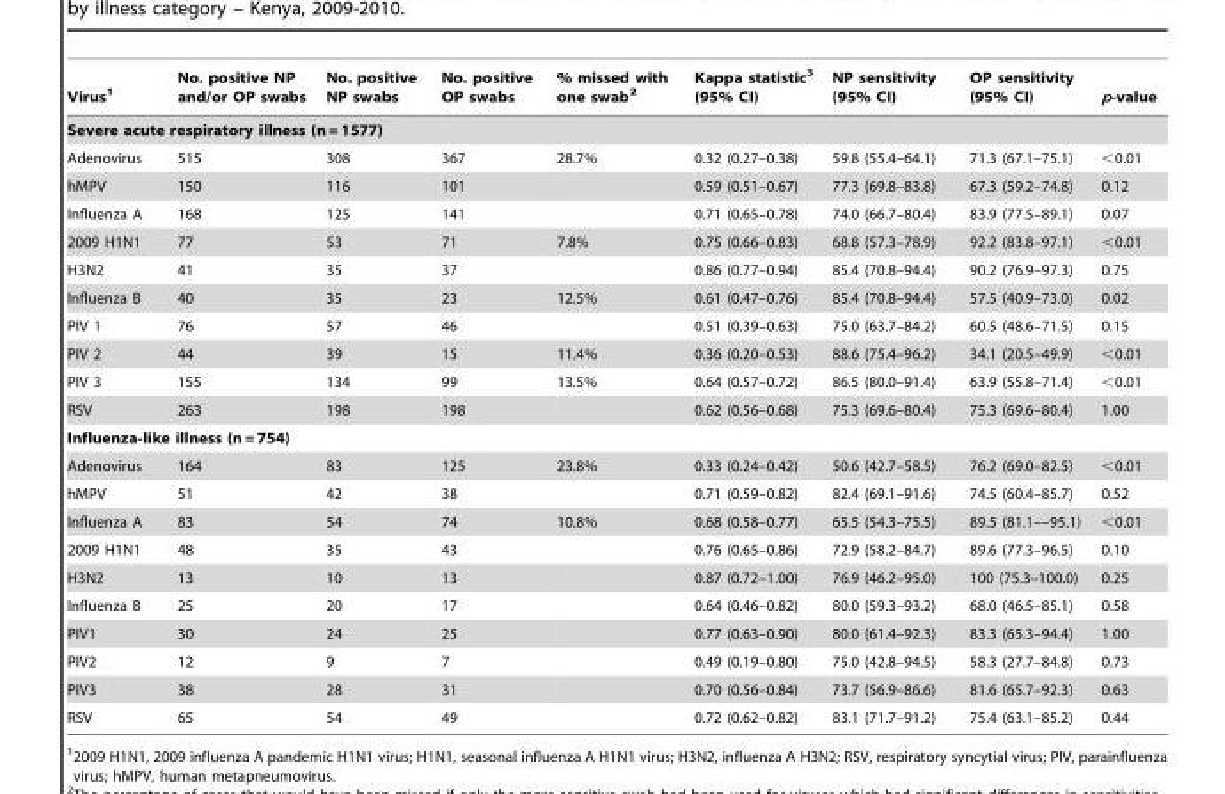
<table><thead><tr><td>Virus<sup>1</sup></td><td>No. positive NP and/or OP swabs</td><td>No. positive NP swabs</td><td>No. positive OP swabs</td><td>% missed with one swab<sup>2</sup></td><td>Kappa statistic<sup>3</sup> (95% CI)</td><td>NP sensitivity (95% CI)</td><td>OP sensitivity (95% CI)</td><td>p-value</td></tr></thead><tbody><tr><td colspan="9">Severe acute respiratory illness (n = 1577)</td></tr><tr><td>Adenovirus</td><td>515</td><td>308</td><td>367</td><td>28.7%</td><td>0.32 (0.27–0.38)</td><td>59.8 (55.4–64.1)</td><td>71.3 (67.1–75.1)</td><td>&lt;0.01</td></tr><tr><td>hMPV</td><td>150</td><td>116</td><td>101</td><td></td><td>0.59 (0.51–0.67)</td><td>77.3 (69.8–83.8)</td><td>67.3 (59.2–74.8)</td><td>0.12</td></tr><tr><td>Influenza A</td><td>168</td><td>125</td><td>141</td><td></td><td>0.71 (0.65–0.78)</td><td>74.0 (66.7–80.4)</td><td>83.9 (77.5–89.1)</td><td>0.07</td></tr><tr><td>2009 H1N1</td><td>77</td><td>53</td><td>71</td><td>7.8%</td><td>0.75 (0.66–0.83)</td><td>68.8 (57.3–78.9)</td><td>92.2 (83.8–97.1)</td><td>&lt;0.01</td></tr><tr><td>H3N2</td><td>41</td><td>35</td><td>37</td><td></td><td>0.86 (0.77–0.94)</td><td>85.4 (70.8–94.4)</td><td>90.2 (76.9–97.3)</td><td>0.75</td></tr><tr><td>Influenza B</td><td>40</td><td>35</td><td>23</td><td>12.5%</td><td>0.61 (0.47–0.76)</td><td>85.4 (70.8–94.4)</td><td>57.5 (40.9–73.0)</td><td>0.02</td></tr><tr><td>PIV 1</td><td>76</td><td>57</td><td>46</td><td></td><td>0.51 (0.39–0.63)</td><td>75.0 (63.7–84.2)</td><td>60.5 (48.6–71.5)</td><td>0.15</td></tr><tr><td>PIV 2</td><td>44</td><td>39</td><td>15</td><td>11.4%</td><td>0.36 (0.20–0.53)</td><td>88.6 (75.4–96.2)</td><td>34.1 (20.5–49.9)</td><td>&lt;0.01</td></tr><tr><td>PIV 3</td><td>155</td><td>134</td><td>99</td><td>13.5%</td><td>0.64 (0.57–0.72)</td><td>86.5 (80.0–91.4)</td><td>63.9 (55.8–71.4)</td><td>&lt;0.01</td></tr><tr><td>RSV</td><td>263</td><td>198</td><td>198</td><td></td><td>0.62 (0.56–0.68)</td><td>75.3 (69.6–80.4)</td><td>75.3 (69.6–80.4)</td><td>1.00</td></tr><tr><td colspan="9">Influenza-like illness (n = 754)</td></tr><tr><td>Adenovirus</td><td>164</td><td>83</td><td>125</td><td>23.8%</td><td>0.33 (0.24–0.42)</td><td>50.6 (42.7–58.5)</td><td>76.2 (69.0–82.5)</td><td>&lt;0.01</td></tr><tr><td>hMPV</td><td>51</td><td>42</td><td>38</td><td></td><td>0.71 (0.59–0.82)</td><td>82.4 (69.1–91.6)</td><td>74.5 (60.4–85.7)</td><td>0.52</td></tr><tr><td>Influenza A</td><td>83</td><td>54</td><td>74</td><td>10.8%</td><td>0.68 (0.58–0.77)</td><td>65.5 (54.3–75.5)</td><td>89.5 (81.1––95.1)</td><td>&lt;0.01</td></tr><tr><td>2009 H1N1</td><td>48</td><td>35</td><td>43</td><td></td><td>0.76 (0.65–0.86)</td><td>72.9 (58.2–84.7)</td><td>89.6 (77.3–96.5)</td><td>0.10</td></tr><tr><td>H3N2</td><td>13</td><td>10</td><td>13</td><td></td><td>0.87 (0.72–1.00)</td><td>76.9 (46.2–95.0)</td><td>100 (75.3–100.0)</td><td>0.25</td></tr><tr><td>Influenza B</td><td>25</td><td>20</td><td>17</td><td></td><td>0.64 (0.46–0.82)</td><td>80.0 (59.3–93.2)</td><td>68.0 (46.5–85.1)</td><td>0.58</td></tr><tr><td>PIV1</td><td>30</td><td>24</td><td>25</td><td></td><td>0.77 (0.63–0.90)</td><td>80.0 (61.4–92.3)</td><td>83.3 (65.3–94.4)</td><td>1.00</td></tr><tr><td>PIV2</td><td>12</td><td>9</td><td>7</td><td></td><td>0.49 (0.19–0.80)</td><td>75.0 (42.8–94.5)</td><td>58.3 (27.7–84.8)</td><td>0.73</td></tr><tr><td>PIV3</td><td>38</td><td>28</td><td>31</td><td></td><td>0.70 (0.56–0.84)</td><td>73.7 (56.9–86.6)</td><td>81.6 (65.7–92.3)</td><td>0.63</td></tr><tr><td>RSV</td><td>65</td><td>54</td><td>49</td><td></td><td>0.72 (0.62–0.82)</td><td>83.1 (71.7–91.2)</td><td>75.4 (63.1–85.2)</td><td>0.44</td></tr></tbody></table>